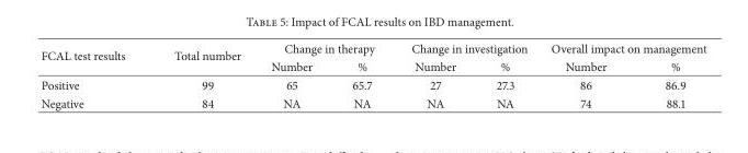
<table><thead><tr><td rowspan="2">FCAL test results</td><td rowspan="2">Total number</td><td colspan="2">Change in therapy</td><td colspan="2">Change in investigation</td><td colspan="2">Overall impact on management</td></tr><tr><td>Number</td><td>%</td><td>Number</td><td>%</td><td>Number</td><td>%</td></tr></thead><tbody><tr><td>Positive</td><td>99</td><td>65</td><td>65.7</td><td>27</td><td>27.3</td><td>86</td><td>86.9</td></tr><tr><td>Negative</td><td>84</td><td>NA</td><td>NA</td><td>NA</td><td>NA</td><td>74</td><td>88.1</td></tr></tbody></table>